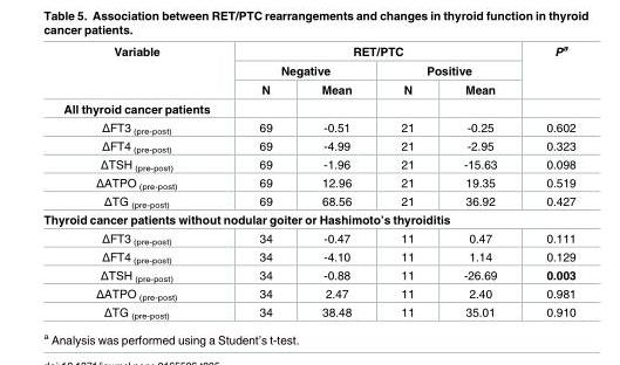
<table><thead><tr><td rowspan="3">Variable</td><td colspan="4">RET/PTC</td><td rowspan="3">P<sup>a</sup></td></tr><tr><td colspan="2">Negative</td><td colspan="2">Positive</td></tr><tr><td>N</td><td>Mean</td><td>N</td><td>Mean</td></tr></thead><tbody><tr><td colspan="6">All thyroid cancer patients</td></tr><tr><td>ΔFT3 <sub>(pre-post)</sub></td><td>69</td><td>-0.51</td><td>21</td><td>-0.25</td><td>0.602</td></tr><tr><td>ΔFT4 <sub>(pre-post)</sub></td><td>69</td><td>-4.99</td><td>21</td><td>-2.95</td><td>0.323</td></tr><tr><td>ΔTSH <sub>(pre-post)</sub></td><td>69</td><td>-1.96</td><td>21</td><td>-15.63</td><td>0.098</td></tr><tr><td>ΔATPO <sub>(pre-post)</sub></td><td>69</td><td>12.96</td><td>21</td><td>19.35</td><td>0.519</td></tr><tr><td>ΔTG <sub>(pre-post)</sub></td><td>69</td><td>68.56</td><td>21</td><td>36.92</td><td>0.427</td></tr><tr><td colspan="6">Thyroid cancer patients without nodular goiter or Hashimoto’s thyroiditis</td></tr><tr><td>ΔFT3 <sub>(pre-post)</sub></td><td>34</td><td>-0.47</td><td>11</td><td>0.47</td><td>0.111</td></tr><tr><td>ΔFT4 <sub>(pre-post)</sub></td><td>34</td><td>-4.10</td><td>11</td><td>1.14</td><td>0.129</td></tr><tr><td>ΔTSH <sub>(pre-post)</sub></td><td>34</td><td>-0.88</td><td>11</td><td>-26.69</td><td>0.003</td></tr><tr><td>ΔATPO <sub>(pre-post)</sub></td><td>34</td><td>2.47</td><td>11</td><td>2.40</td><td>0.981</td></tr><tr><td>ΔTG <sub>(pre-post)</sub></td><td>34</td><td>38.48</td><td>11</td><td>35.01</td><td>0.910</td></tr></tbody></table>